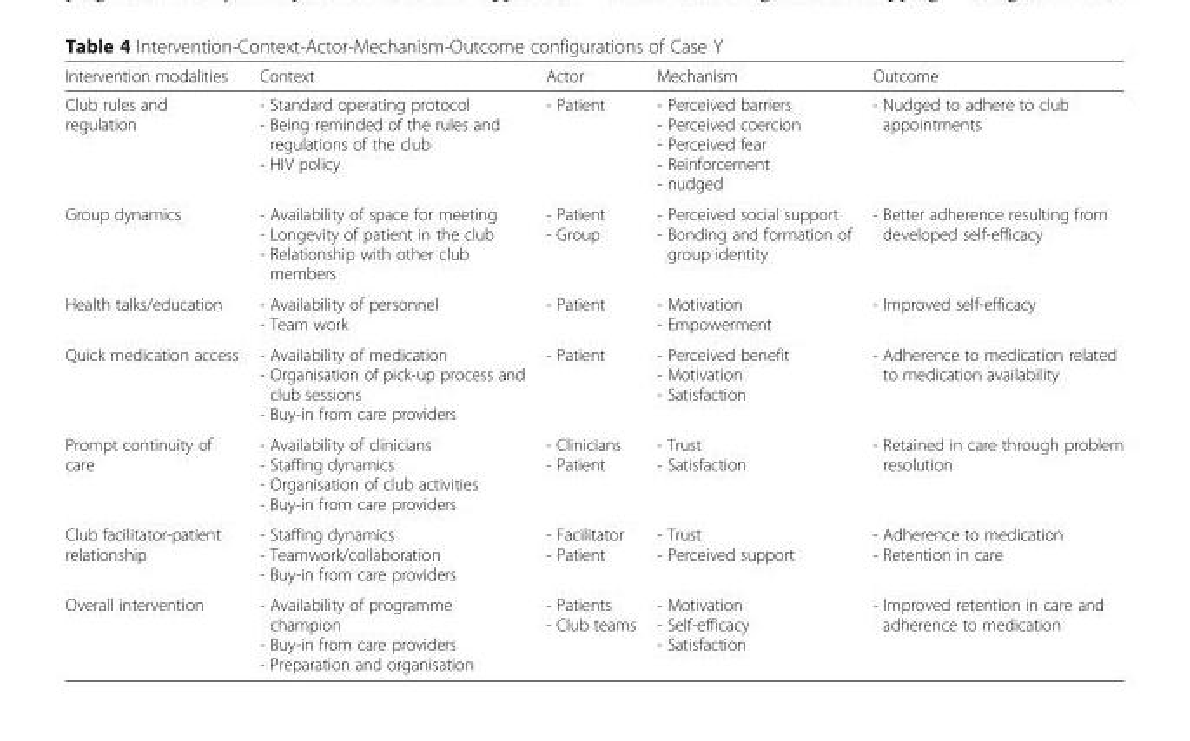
<table><thead><tr><td>Intervention modalities</td><td>Context</td><td>Actor</td><td>Mechanism</td><td>Outcome</td></tr></thead><tbody><tr><td>Club rules and regulation</td><td>- Standard operating protocol - Being reminded of the rules and regulations of the club - HIV policy</td><td>- Patient</td><td>- Perceived barriers - Perceived coercion - Perceived fear - Reinforcement - nudged</td><td>- Nudged to adhere to club appointments</td></tr><tr><td>Group dynamics</td><td>- Availability of space for meeting - Longevity of patient in the club - Relationship with other club members</td><td>- Patient - Group</td><td>- Perceived social support - Bonding and formation of group identity</td><td>- Better adherence resulting from developed self-efficacy</td></tr><tr><td>Health talks/education</td><td>- Availability of personnel - Team work</td><td>- Patient</td><td>- Motivation - Empowerment</td><td>- Improved self-efficacy</td></tr><tr><td>Quick medication access</td><td>- Availability of medication - Organisation of pick-up process and club sessions - Buy-in from care providers</td><td>- Patient</td><td>- Perceived benefit - Motivation - Satisfaction</td><td>- Adherence to medication related to medication availability</td></tr><tr><td>Prompt continuity of care</td><td>- Availability of clinicians - Staffing dynamics - Organisation of club activities - Buy-in from care providers</td><td>- Clinicians - Patient</td><td>- Trust - Satisfaction</td><td>- Retained in care through problem resolution</td></tr><tr><td>Club facilitator-patient relationship</td><td>- Staffing dynamics - Teamwork/collaboration - Buy-in from care providers</td><td>- Facilitator - Patient</td><td>- Trust - Perceived support</td><td>- Adherence to medication - Retention in care</td></tr><tr><td>Overall intervention</td><td>- Availability of programme champion - Buy-in from care providers - Preparation and organisation</td><td>- Patients - Club teams</td><td>- Motivation - Self-efficacy - Satisfaction</td><td>- Improved retention in care and adherence to medication</td></tr></tbody></table>